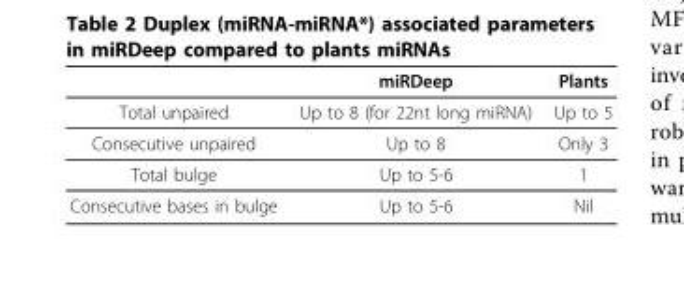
<table><thead><tr><td></td><td>miRDeep</td><td>Plants</td></tr></thead><tbody><tr><td>Total unpaired</td><td>Up to 8 (for 22nt long miRNA)</td><td>Up to 5</td></tr><tr><td>Consecutive unpaired</td><td>Up to 8</td><td>Only 3</td></tr><tr><td>Total bulge</td><td>Up to 5-6</td><td>1</td></tr><tr><td>Consecutive bases in bulge</td><td>Up to 5-6</td><td>Nil</td></tr></tbody></table>